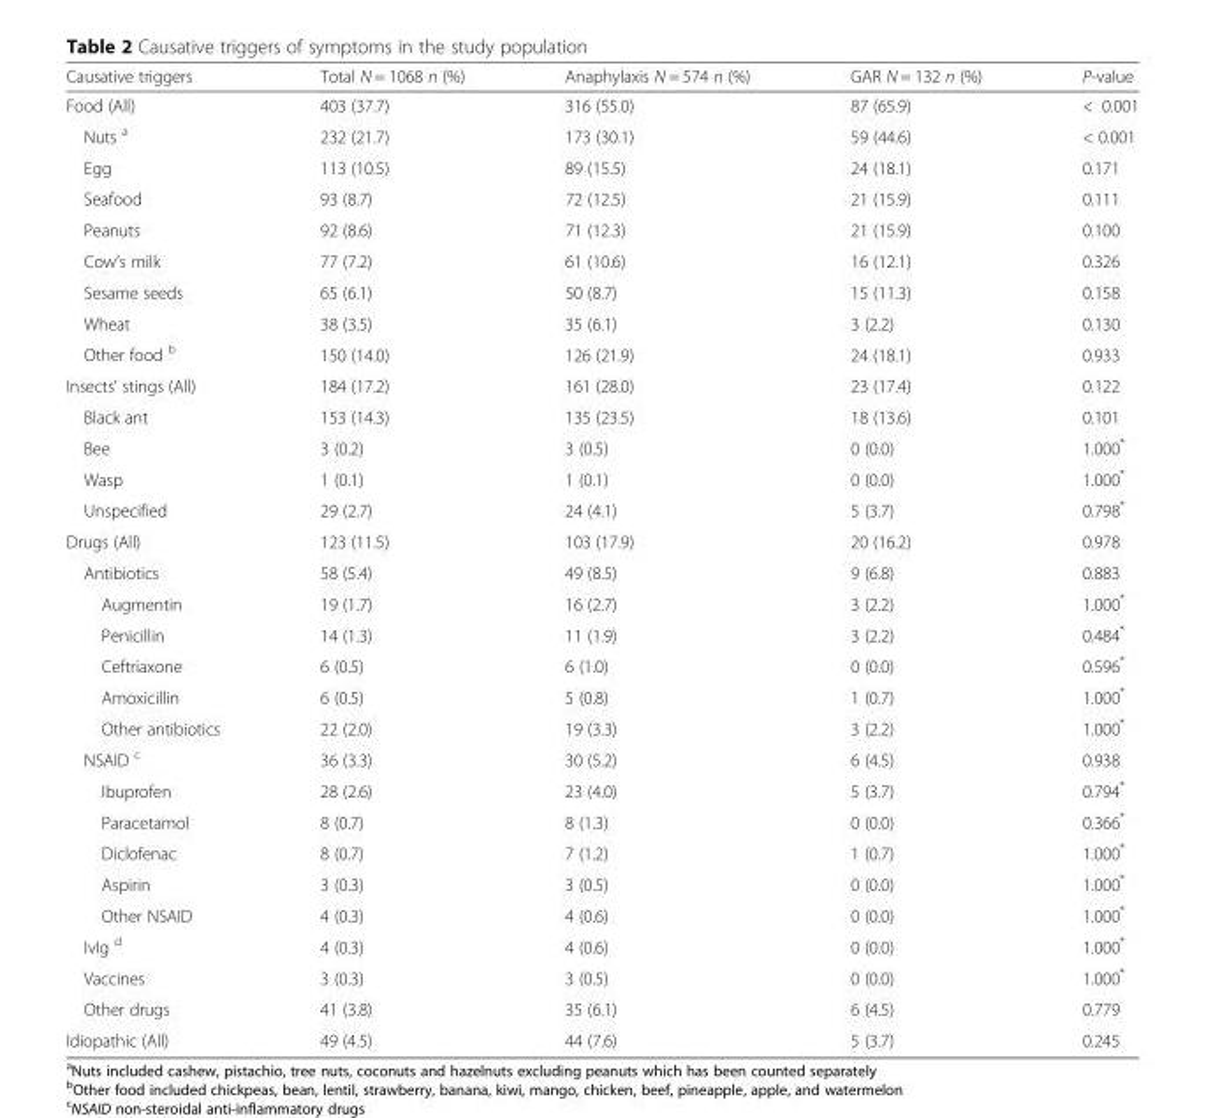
<table><thead><tr><td>Causative triggers</td><td>Total N = 1068 n (%)</td><td>Anaphylaxis N = 574 n (%)</td><td>GAR N = 132 n (%)</td><td>P-value</td></tr></thead><tbody><tr><td>Food (All)</td><td>403 (37.7)</td><td>316 (55.0)</td><td>87 (65.9)</td><td>&lt; 0.001</td></tr><tr><td>Nuts <sup>a</sup></td><td>232 (21.7)</td><td>173 (30.1)</td><td>59 (44.6)</td><td>&lt; 0.001</td></tr><tr><td>Egg</td><td>113 (10.5)</td><td>89 (15.5)</td><td>24 (18.1)</td><td>0.171</td></tr><tr><td>Seafood</td><td>93 (8.7)</td><td>72 (12.5)</td><td>21 (15.9)</td><td>0.111</td></tr><tr><td>Peanuts</td><td>92 (8.6)</td><td>71 (12.3)</td><td>21 (15.9)</td><td>0.100</td></tr><tr><td>Cow’s milk</td><td>77 (7.2)</td><td>61 (10.6)</td><td>16 (12.1)</td><td>0.326</td></tr><tr><td>Sesame seeds</td><td>65 (6.1)</td><td>50 (8.7)</td><td>15 (11.3)</td><td>0.158</td></tr><tr><td>Wheat</td><td>38 (3.5)</td><td>35 (6.1)</td><td>3 (2.2)</td><td>0.130</td></tr><tr><td>Other food <sup>b</sup></td><td>150 (14.0)</td><td>126 (21.9)</td><td>24 (18.1)</td><td>0.933</td></tr><tr><td>Insects’ stings (All)</td><td>184 (17.2)</td><td>161 (28.0)</td><td>23 (17.4)</td><td>0.122</td></tr><tr><td>Black ant</td><td>153 (14.3)</td><td>135 (23.5)</td><td>18 (13.6)</td><td>0.101</td></tr><tr><td>Bee</td><td>3 (0.2)</td><td>3 (0.5)</td><td>0 (0.0)</td><td>1.000*</td></tr><tr><td>Wasp</td><td>1 (0.1)</td><td>1 (0.1)</td><td>0 (0.0)</td><td>1.000*</td></tr><tr><td>Unspecified</td><td>29 (2.7)</td><td>24 (4.1)</td><td>5 (3.7)</td><td>0.798*</td></tr><tr><td>Drugs (All)</td><td>123 (11.5)</td><td>103 (17.9)</td><td>20 (16.2)</td><td>0.978</td></tr><tr><td>Antibiotics</td><td>58 (5.4)</td><td>49 (8.5)</td><td>9 (6.8)</td><td>0.883</td></tr><tr><td>Augmentin</td><td>19 (1.7)</td><td>16 (2.7)</td><td>3 (2.2)</td><td>1.000*</td></tr><tr><td>Penicillin</td><td>14 (1.3)</td><td>11 (1.9)</td><td>3 (2.2)</td><td>0.484*</td></tr><tr><td>Ceftriaxone</td><td>6 (0.5)</td><td>6 (1.0)</td><td>0 (0.0)</td><td>0.596*</td></tr><tr><td>Amoxicillin</td><td>6 (0.5)</td><td>5 (0.8)</td><td>1 (0.7)</td><td>1.000*</td></tr><tr><td>Other antibiotics</td><td>22 (2.0)</td><td>19 (3.3)</td><td>3 (2.2)</td><td>1.000*</td></tr><tr><td>NSAID <sup>c</sup></td><td>36 (3.3)</td><td>30 (5.2)</td><td>6 (4.5)</td><td>0.938</td></tr><tr><td>Ibuprofen</td><td>28 (2.6)</td><td>23 (4.0)</td><td>5 (3.7)</td><td>0.794*</td></tr><tr><td>Paracetamol</td><td>8 (0.7)</td><td>8 (1.3)</td><td>0 (0.0)</td><td>0.366*</td></tr><tr><td>Diclofenac</td><td>8 (0.7)</td><td>7 (1.2)</td><td>1 (0.7)</td><td>1.000*</td></tr><tr><td>Aspirin</td><td>3 (0.3)</td><td>3 (0.5)</td><td>0 (0.0)</td><td>1.000*</td></tr><tr><td>Other NSAID</td><td>4 (0.3)</td><td>4 (0.6)</td><td>0 (0.0)</td><td>1.000*</td></tr><tr><td>IvIg <sup>d</sup></td><td>4 (0.3)</td><td>4 (0.6)</td><td>0 (0.0)</td><td>1.000*</td></tr><tr><td>Vaccines</td><td>3 (0.3)</td><td>3 (0.5)</td><td>0 (0.0)</td><td>1.000*</td></tr><tr><td>Other drugs</td><td>41 (3.8)</td><td>35 (6.1)</td><td>6 (4.5)</td><td>0.779</td></tr><tr><td>Idiopathic (All)</td><td>49 (4.5)</td><td>44 (7.6)</td><td>5 (3.7)</td><td>0.245</td></tr></tbody></table>